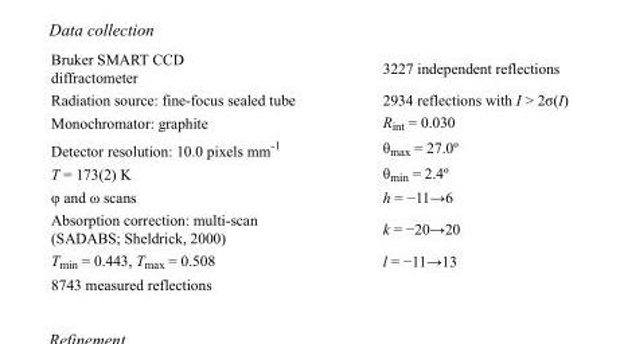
<table><tbody><tr><td>Bruker SMART CCD diffractometer</td><td>3227 independent reflections</td></tr><tr><td>Radiation source: fine-focus sealed tube</td><td>2934 reflections with I &gt; 2σ(I)</td></tr><tr><td>Monochromator: graphite</td><td>R<sub>int</sub> = 0.030</td></tr><tr><td>Detector resolution: 10.0 pixels mm<sup>-1</sup></td><td>θ<sub>max</sub> = 27.0º</td></tr><tr><td>T = 173(2) K</td><td>θ<sub>min</sub> = 2.4º</td></tr><tr><td>φ and ω scans</td><td>h = −11→6</td></tr><tr><td>Absorption correction: multi-scan (SADABS; Sheldrick, 2000)</td><td>k = −20→20</td></tr><tr><td>T<sub>min</sub> = 0.443, T<sub>max</sub> = 0.508</td><td>l = −11→13</td></tr><tr><td>8743 measured reflections</td><td></td></tr></tbody></table>